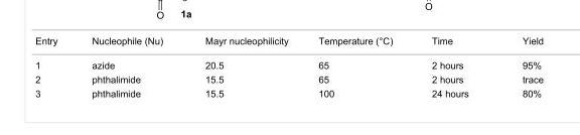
<table><tbody><tr><td>Entry</td><td>Nucleophile (Nu)</td><td>Mayr nucleophilicity</td><td>Temperature (°C)</td><td>Time</td><td>Yield</td></tr><tr><td>1</td><td>azide</td><td>20.5</td><td>65</td><td>2 hours</td><td>95%</td></tr><tr><td>2</td><td>phthalimide</td><td>15.5</td><td>65</td><td>2 hours</td><td>trace</td></tr><tr><td>3</td><td>phthalimide</td><td>15.5</td><td>100</td><td>24 hours</td><td>80%</td></tr></tbody></table>